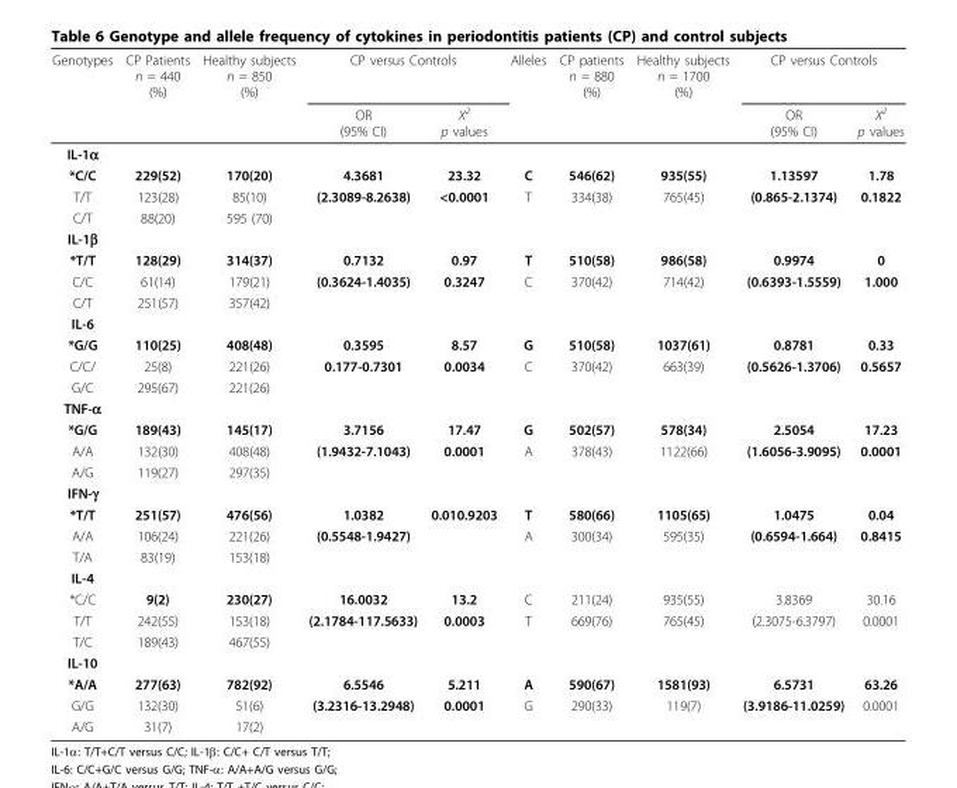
<table><thead><tr><td rowspan="2">Genotypes</td><td rowspan="2">CP Patients n = 440 (%)</td><td rowspan="2">Healthy subjects n = 850 (%)</td><td colspan="2">CP versus Controls</td><td rowspan="2">Alleles</td><td rowspan="2">CP patients n = 880 (%)</td><td rowspan="2">Healthy subjects n = 1700 (%)</td><td colspan="2">CP versus Controls</td></tr><tr><td>OR (95% CI)</td><td>X<sup>2</sup> p values</td><td>OR (95% CI)</td><td>X<sup>2</sup> p values</td></tr></thead><tbody><tr><td colspan="10">IL-1α</td></tr><tr><td>*C/C</td><td>229(52)</td><td>170(20)</td><td>4.3681</td><td>23.32</td><td>C</td><td>546(62)</td><td>935(55)</td><td>1.13597</td><td>1.78</td></tr><tr><td>T/T</td><td>123(28)</td><td>85(10)</td><td>(2.3089-8.2638)</td><td>&lt;0.0001</td><td>T</td><td>334(38)</td><td>765(45)</td><td>(0.865-2.1374)</td><td>0.1822</td></tr><tr><td>C/T</td><td>88(20)</td><td>595 (70)</td><td></td><td></td><td></td><td></td><td></td><td></td><td></td></tr><tr><td colspan="10">IL-1β</td></tr><tr><td>*T/T</td><td>128(29)</td><td>314(37)</td><td>0.7132</td><td>0.97</td><td>T</td><td>510(58)</td><td>986(58)</td><td>0.9974</td><td>0</td></tr><tr><td>C/C</td><td>61(14)</td><td>179(21)</td><td>(0.3624-1.4035)</td><td>0.3247</td><td>C</td><td>370(42)</td><td>714(42)</td><td>(0.6393-1.5559)</td><td>1.000</td></tr><tr><td>C/T</td><td>251(57)</td><td>357(42)</td><td></td><td></td><td></td><td></td><td></td><td></td><td></td></tr><tr><td colspan="10">IL-6</td></tr><tr><td>*G/G</td><td>110(25)</td><td>408(48)</td><td>0.3595</td><td>8.57</td><td>G</td><td>510(58)</td><td>1037(61)</td><td>0.8781</td><td>0.33</td></tr><tr><td>C/C/</td><td>25(8)</td><td>221(26)</td><td>0.177-0.7301</td><td>0.0034</td><td>C</td><td>370(42)</td><td>663(39)</td><td>(0.5626-1.3706)</td><td>0.5657</td></tr><tr><td>G/C</td><td>295(67)</td><td>221(26)</td><td></td><td></td><td></td><td></td><td></td><td></td><td></td></tr><tr><td colspan="10">TNF-α</td></tr><tr><td>*G/G</td><td>189(43)</td><td>145(17)</td><td>3.7156</td><td>17.47</td><td>G</td><td>502(57)</td><td>578(34)</td><td>2.5054</td><td>17.23</td></tr><tr><td>A/A</td><td>132(30)</td><td>408(48)</td><td>(1.9432-7.1043)</td><td>0.0001</td><td>A</td><td>378(43)</td><td>1122(66)</td><td>(1.6056-3.9095)</td><td>0.0001</td></tr><tr><td>A/G</td><td>119(27)</td><td>297(35)</td><td></td><td></td><td></td><td></td><td></td><td></td><td></td></tr><tr><td colspan="10">IFN-γ</td></tr><tr><td>*T/T</td><td>251(57)</td><td>476(56)</td><td>1.0382</td><td>0.010.9203</td><td>T</td><td>580(66)</td><td>1105(65)</td><td>1.0475</td><td>0.04</td></tr><tr><td>A/A</td><td>106(24)</td><td>221(26)</td><td>(0.5548-1.9427)</td><td></td><td>A</td><td>300(34)</td><td>595(35)</td><td>(0.6594-1.664)</td><td>0.8415</td></tr><tr><td>T/A</td><td>83(19)</td><td>153(18)</td><td></td><td></td><td></td><td></td><td></td><td></td><td></td></tr><tr><td colspan="10">IL-4</td></tr><tr><td>*C/C</td><td>9(2)</td><td>230(27)</td><td>16.0032</td><td>13.2</td><td>C</td><td>211(24)</td><td>935(55)</td><td>3.8369</td><td>30.16</td></tr><tr><td>T/T</td><td>242(55)</td><td>153(18)</td><td>(2.1784-117.5633)</td><td>0.0003</td><td>T</td><td>669(76)</td><td>765(45)</td><td>(2.3075-6.3797)</td><td>0.0001</td></tr><tr><td>T/C</td><td>189(43)</td><td>467(55)</td><td></td><td></td><td></td><td></td><td></td><td></td><td></td></tr><tr><td colspan="10">IL-10</td></tr><tr><td>*A/A</td><td>277(63)</td><td>782(92)</td><td>6.5546</td><td>5.211</td><td>A</td><td>590(67)</td><td>1581(93)</td><td>6.5731</td><td>63.26</td></tr><tr><td>G/G</td><td>132(30)</td><td>51(6)</td><td>(3.2316-13.2948)</td><td>0.0001</td><td>G</td><td>290(33)</td><td>119(7)</td><td>(3.9186-11.0259)</td><td>0.0001</td></tr><tr><td>A/G</td><td>31(7)</td><td>17(2)</td><td></td><td></td><td></td><td></td><td></td><td></td><td></td></tr></tbody></table>